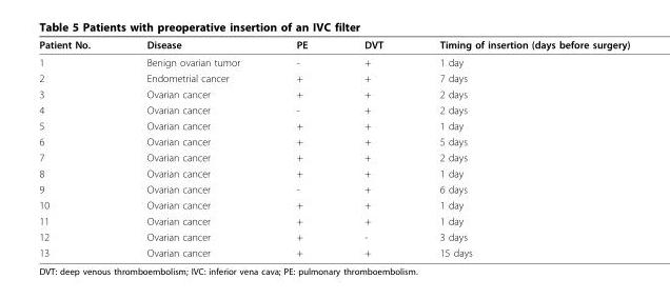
<table><thead><tr><td>Patient No.</td><td>Disease</td><td>PE</td><td>DVT</td><td>Timing of insertion (days before surgery)</td></tr></thead><tbody><tr><td>1</td><td>Benign ovarian tumor</td><td>-</td><td>+</td><td>1 day</td></tr><tr><td>2</td><td>Endometrial cancer</td><td>+</td><td>+</td><td>7 days</td></tr><tr><td>3</td><td>Ovarian cancer</td><td>+</td><td>+</td><td>2 days</td></tr><tr><td>4</td><td>Ovarian cancer</td><td>-</td><td>+</td><td>2 days</td></tr><tr><td>5</td><td>Ovarian cancer</td><td>+</td><td>+</td><td>1 day</td></tr><tr><td>6</td><td>Ovarian cancer</td><td>+</td><td>+</td><td>5 days</td></tr><tr><td>7</td><td>Ovarian cancer</td><td>+</td><td>+</td><td>2 days</td></tr><tr><td>8</td><td>Ovarian cancer</td><td>+</td><td>+</td><td>1 day</td></tr><tr><td>9</td><td>Ovarian cancer</td><td>-</td><td>+</td><td>6 days</td></tr><tr><td>10</td><td>Ovarian cancer</td><td>+</td><td>+</td><td>1 day</td></tr><tr><td>11</td><td>Ovarian cancer</td><td>+</td><td>+</td><td>1 day</td></tr><tr><td>12</td><td>Ovarian cancer</td><td>+</td><td>-</td><td>3 days</td></tr><tr><td>13</td><td>Ovarian cancer</td><td>+</td><td>+</td><td>15 days</td></tr></tbody></table>